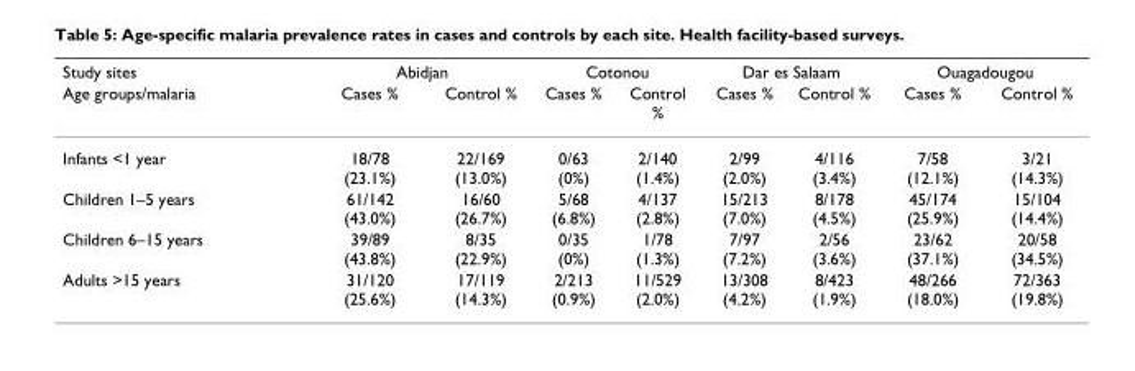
<table><thead><tr><td rowspan="2">Study sites Age groups/malaria</td><td colspan="2">Abidjan</td><td colspan="2">Cotonou</td><td colspan="2">Dar es Salaam</td><td colspan="2">Ouagadougou</td></tr><tr><td>Cases %</td><td>Control %</td><td>Cases %</td><td>Control %</td><td>Cases %</td><td>Control %</td><td>Cases %</td><td>Control %</td></tr></thead><tbody><tr><td>Infants &lt;1 year</td><td>18/78 (23.1%)</td><td>22/169 (13.0%)</td><td>0/63 (0%)</td><td>2/140 (1.4%)</td><td>2/99 (2.0%)</td><td>4/116 (3.4%)</td><td>7/58 (12.1%)</td><td>3/21 (14.3%)</td></tr><tr><td>Children 1–5 years</td><td>61/142 (43.0%)</td><td>16/60 (26.7%)</td><td>5/68 (6.8%)</td><td>4/137 (2.8%)</td><td>15/213 (7.0%)</td><td>8/178 (4.5%)</td><td>45/174 (25.9%)</td><td>15/104 (14.4%)</td></tr><tr><td>Children 6–15 years</td><td>39/89 (43.8%)</td><td>8/35 (22.9%)</td><td>0/35 (0%)</td><td>1/78 (1.3%)</td><td>7/97 (7.2%)</td><td>2/56 (3.6%)</td><td>23/62 (37.1%)</td><td>20/58 (34.5%)</td></tr><tr><td>Adults &gt;15 years</td><td>31/120 (25.6%)</td><td>17/119 (14.3%)</td><td>2/213 (0.9%)</td><td>11/529 (2.0%)</td><td>13/308 (4.2%)</td><td>8/423 (1.9%)</td><td>48/266 (18.0%)</td><td>72/363 (19.8%)</td></tr></tbody></table>